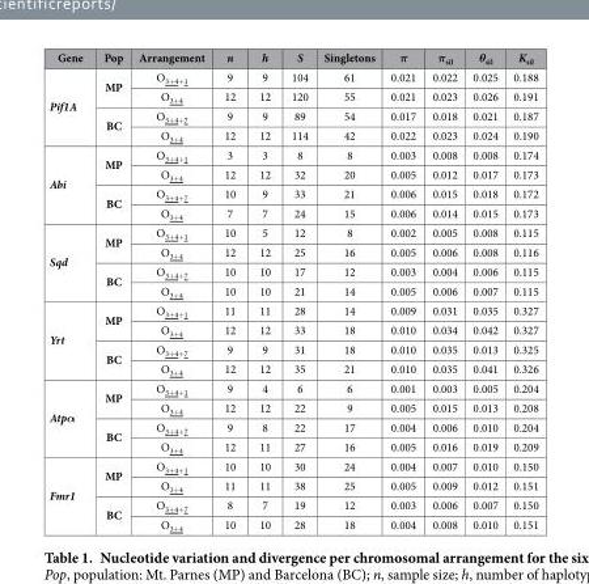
<table><thead><tr><td>Gene</td><td>Pop</td><td>Arrangement</td><td>n</td><td>h</td><td>S</td><td>Singletons</td><td>π</td><td>π<sub>sil</sub></td><td>θ<sub>sil</sub></td><td>K<sub>sil</sub></td></tr></thead><tbody><tr><td rowspan="4">Pif1A</td><td rowspan="2">MP</td><td>O<sub>3+4+1</sub></td><td>9</td><td>9</td><td>104</td><td>61</td><td>0.021</td><td>0.022</td><td>0.025</td><td>0.188</td></tr><tr><td>O<sub>3+4</sub></td><td>12</td><td>12</td><td>120</td><td>55</td><td>0.021</td><td>0.023</td><td>0.026</td><td>0.191</td></tr><tr><td rowspan="2">BC</td><td>O<sub>3+4+7</sub></td><td>9</td><td>9</td><td>89</td><td>54</td><td>0.017</td><td>0.018</td><td>0.021</td><td>0.187</td></tr><tr><td>O<sub>3+4</sub></td><td>12</td><td>12</td><td>114</td><td>42</td><td>0.022</td><td>0.023</td><td>0.024</td><td>0.190</td></tr><tr><td rowspan="4">Abi</td><td rowspan="2">MP</td><td>O<sub>3+4+1</sub></td><td>3</td><td>3</td><td>8</td><td>8</td><td>0.003</td><td>0.008</td><td>0.008</td><td>0.174</td></tr><tr><td>O<sub>3+4</sub></td><td>12</td><td>12</td><td>32</td><td>20</td><td>0.005</td><td>0.012</td><td>0.017</td><td>0.173</td></tr><tr><td rowspan="2">BC</td><td>O<sub>3+4+7</sub></td><td>10</td><td>9</td><td>33</td><td>21</td><td>0.006</td><td>0.015</td><td>0.018</td><td>0.172</td></tr><tr><td>O<sub>3+4</sub></td><td>7</td><td>7</td><td>24</td><td>15</td><td>0.006</td><td>0.014</td><td>0.015</td><td>0.173</td></tr><tr><td rowspan="4">Sqd</td><td rowspan="2">MP</td><td>O<sub>3+4+1</sub></td><td>10</td><td>5</td><td>12</td><td>8</td><td>0.002</td><td>0.005</td><td>0.008</td><td>0.115</td></tr><tr><td>O<sub>3+4</sub></td><td>12</td><td>12</td><td>25</td><td>16</td><td>0.005</td><td>0.006</td><td>0.008</td><td>0.116</td></tr><tr><td rowspan="2">BC</td><td>O<sub>3+4+7</sub></td><td>10</td><td>10</td><td>17</td><td>12</td><td>0.003</td><td>0.004</td><td>0.006</td><td>0.115</td></tr><tr><td>O<sub>3+4</sub></td><td>10</td><td>10</td><td>21</td><td>14</td><td>0.005</td><td>0.006</td><td>0.007</td><td>0.115</td></tr><tr><td rowspan="4">Yrt</td><td rowspan="2">MP</td><td>O<sub>3+4+1</sub></td><td>11</td><td>11</td><td>28</td><td>14</td><td>0.009</td><td>0.031</td><td>0.035</td><td>0.327</td></tr><tr><td>O<sub>3+4</sub></td><td>12</td><td>12</td><td>33</td><td>18</td><td>0.010</td><td>0.034</td><td>0.042</td><td>0.327</td></tr><tr><td rowspan="2">BC</td><td>O<sub>3+4+7</sub></td><td>9</td><td>9</td><td>31</td><td>18</td><td>0.010</td><td>0.035</td><td>0.013</td><td>0.325</td></tr><tr><td>O<sub>3+4</sub></td><td>12</td><td>12</td><td>35</td><td>21</td><td>0.010</td><td>0.035</td><td>0.041</td><td>0.326</td></tr><tr><td rowspan="4">Atpα</td><td rowspan="2">MP</td><td>O<sub>3+4+1</sub></td><td>9</td><td>4</td><td>6</td><td>6</td><td>0.001</td><td>0.003</td><td>0.005</td><td>0.204</td></tr><tr><td>O<sub>3+4</sub></td><td>12</td><td>12</td><td>22</td><td>9</td><td>0.005</td><td>0.015</td><td>0.013</td><td>0.208</td></tr><tr><td rowspan="2">BC</td><td>O<sub>3+4+7</sub></td><td>9</td><td>8</td><td>22</td><td>17</td><td>0.004</td><td>0.006</td><td>0.010</td><td>0.204</td></tr><tr><td>O<sub>3+4</sub></td><td>12</td><td>11</td><td>27</td><td>16</td><td>0.005</td><td>0.016</td><td>0.019</td><td>0.209</td></tr><tr><td rowspan="4">Fmr1</td><td rowspan="2">MP</td><td>O<sub>3+4+1</sub></td><td>10</td><td>10</td><td>30</td><td>24</td><td>0.004</td><td>0.007</td><td>0.010</td><td>0.150</td></tr><tr><td>O<sub>3+4</sub></td><td>11</td><td>11</td><td>38</td><td>25</td><td>0.005</td><td>0.009</td><td>0.012</td><td>0.151</td></tr><tr><td rowspan="2">BC</td><td>O<sub>3+4+7</sub></td><td>8</td><td>7</td><td>19</td><td>12</td><td>0.003</td><td>0.006</td><td>0.007</td><td>0.150</td></tr><tr><td>O<sub>3+4</sub></td><td>10</td><td>10</td><td>28</td><td>18</td><td>0.004</td><td>0.008</td><td>0.010</td><td>0.151</td></tr></tbody></table>